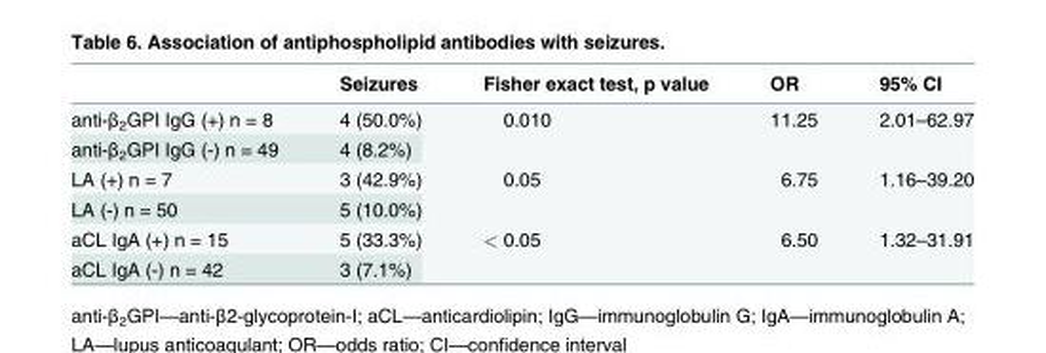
<table><thead><tr><td></td><td>Seizures</td><td>Fisher exact test, p value</td><td>OR</td><td>95% CI</td></tr></thead><tbody><tr><td>anti-β<sub>2</sub>GPI IgG (+) n = 8</td><td>4 (50.0%)</td><td rowspan="2">0.010</td><td rowspan="2">11.25</td><td rowspan="2">2.01–62.97</td></tr><tr><td>anti-β<sub>2</sub>GPI IgG (-) n = 49</td><td>4 (8.2%)</td></tr><tr><td>LA (+) n = 7</td><td>3 (42.9%)</td><td rowspan="2">0.05</td><td rowspan="2">6.75</td><td rowspan="2">1.16–39.20</td></tr><tr><td>LA (-) n = 50</td><td>5 (10.0%)</td></tr><tr><td>aCL IgA (+) n = 15</td><td>5 (33.3%)</td><td rowspan="2">&lt; 0.05</td><td rowspan="2">6.50</td><td rowspan="2">1.32–31.91</td></tr><tr><td>aCL IgA (-) n = 42</td><td>3 (7.1%)</td></tr></tbody></table>